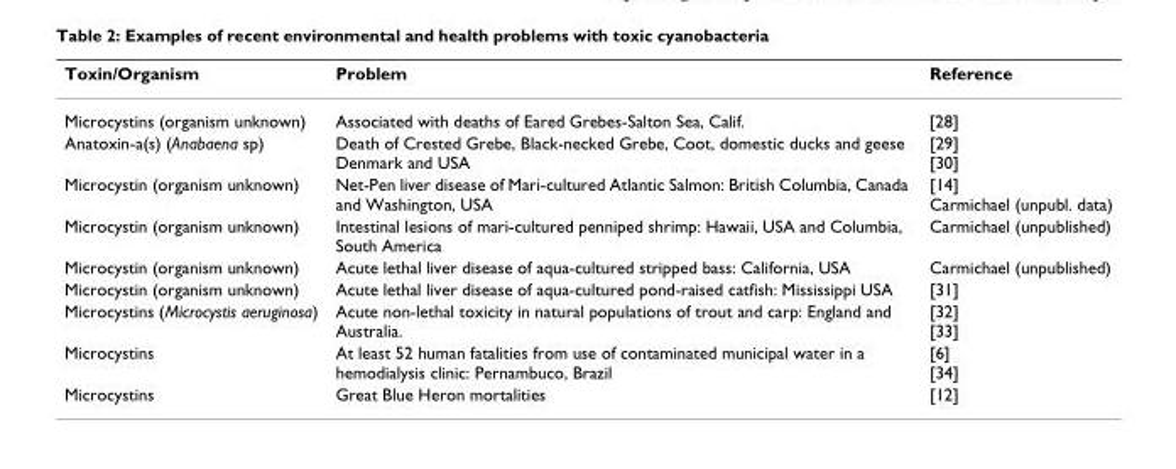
<table><thead><tr><td>Toxin/Organism</td><td>Problem</td><td>Reference</td></tr></thead><tbody><tr><td>Microcystins (organism unknown)</td><td>Associated with deaths of Eared Grebes-Salton Sea, Calif.</td><td>[28]</td></tr><tr><td>Anatoxin-a(s) (Anabaena sp)</td><td>Death of Crested Grebe, Black-necked Grebe, Coot, domestic ducks and geese Denmark and USA</td><td>[29] [30]</td></tr><tr><td>Microcystin (organism unknown)</td><td>Net-Pen liver disease of Mari-cultured Atlantic Salmon: British Columbia, Canada and Washington, USA</td><td>[14] Carmichael (unpubl. data)</td></tr><tr><td>Microcystin (organism unknown)</td><td>Intestinal lesions of mari-cultured penniped shrimp: Hawaii, USA and Columbia, South America</td><td>Carmichael (unpublished)</td></tr><tr><td>Microcystin (organism unknown)</td><td>Acute lethal liver disease of aqua-cultured stripped bass: California, USA</td><td>Carmichael (unpublished)</td></tr><tr><td>Microcystin (organism unknown)</td><td>Acute lethal liver disease of aqua-cultured pond-raised catfish: Mississippi USA</td><td>[31]</td></tr><tr><td>Microcystins (Microcystis aeruginosa)</td><td>Acute non-lethal toxicity in natural populations of trout and carp: England and Australia.</td><td>[32] [33]</td></tr><tr><td>Microcystins</td><td>At least 52 human fatalities from use of contaminated municipal water in a hemodialysis clinic: Pernambuco, Brazil</td><td>[6] [34]</td></tr><tr><td>Microcystins</td><td>Great Blue Heron mortalities</td><td>[12]</td></tr></tbody></table>